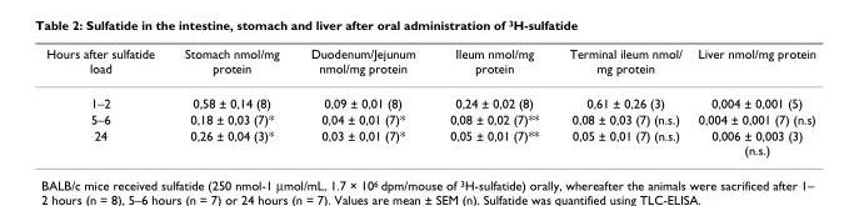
<table><thead><tr><td>Hours after sulfatide load</td><td>Stomach nmol/mg protein</td><td>Duodenum/Jejunum nmol/mg protein</td><td>Ileum nmol/mg protein</td><td>Terminal ileum nmol/ mg protein</td><td>Liver nmol/mg protein</td></tr></thead><tbody><tr><td>1–2</td><td>0,58 ± 0,14 (8)</td><td>0,09 ± 0,01 (8)</td><td>0,24 ± 0,02 (8)</td><td>0,61 ± 0,26 (3)</td><td>0,004 ± 0,001 (5)</td></tr><tr><td>5–6</td><td>0,18 ± 0,03 (7)*</td><td>0,04 ± 0,01 (7)*</td><td>0,08 ± 0,02 (7)**</td><td>0,08 ± 0,03 (7) (n.s.)</td><td>0,004 ± 0,001 (7) (n.s)</td></tr><tr><td>24</td><td>0,26 ± 0,04 (3)*</td><td>0,03 ± 0,01 (7)*</td><td>0,05 ± 0,01 (7)**</td><td>0,05 ± 0,01 (7) (n.s.)</td><td>0,006 ± 0,003 (3) (n.s.)</td></tr></tbody></table>